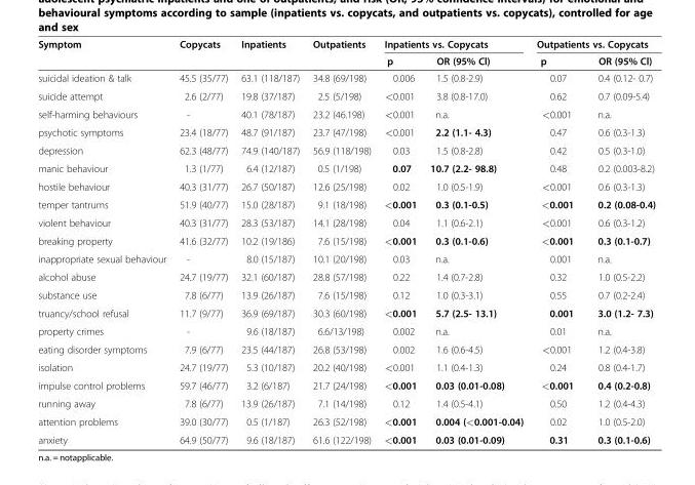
<table><thead><tr><td rowspan="2">Symptom</td><td rowspan="2">Copycats</td><td rowspan="2">Inpatients</td><td rowspan="2">Outpatients</td><td colspan="2">Inpatients vs. Copycats</td><td colspan="2">Outpatients vs. Copycats</td></tr><tr><td>p</td><td>OR (95% Cl)</td><td>p</td><td>OR (95% Cl)</td></tr></thead><tbody><tr><td>suicidal ideation &amp; talk</td><td>45.5 (35/77)</td><td>63.1 (118/187)</td><td>34.8 (69/198)</td><td>0.006</td><td>1.5 (0.8-2.9)</td><td>0.07</td><td>0.4 (0.12- 0.7)</td></tr><tr><td>suicide attempt</td><td>2.6 (2/77)</td><td>19.8 (37/187)</td><td>2.5 (5/198)</td><td>&lt;0.001</td><td>3.8 (0.8-17.0)</td><td>0.62</td><td>0.7 (0.09-5.4)</td></tr><tr><td>self-harming behaviours</td><td>-</td><td>40.1 (78/187)</td><td>23.2 (46.198)</td><td>&lt;0.001</td><td>n.a.</td><td>&lt;0.001</td><td>n.a.</td></tr><tr><td>psychotic symptoms</td><td>23.4 (18/77)</td><td>48.7 (91/187)</td><td>23.7 (47/198)</td><td>&lt;0.001</td><td>2.2 (1.1- 4.3)</td><td>0.47</td><td>0.6 (0.3-1.3)</td></tr><tr><td>depression</td><td>62.3 (48/77)</td><td>74.9 (140/187)</td><td>56.9 (118/198)</td><td>0.03</td><td>1.5 (0.8-2.8)</td><td>0.42</td><td>0.5 (0.3-1.0)</td></tr><tr><td>manic behaviour</td><td>1.3 (1/77)</td><td>6.4 (12/187)</td><td>0.5 (1/198)</td><td>0.07</td><td>10.7 (2.2- 98.8)</td><td>0.48</td><td>0.2 (0.003-8.2)</td></tr><tr><td>hostile behaviour</td><td>40.3 (31/77)</td><td>26.7 (50/187)</td><td>12.6 (25/198)</td><td>0.02</td><td>1.0 (0.5-1.9)</td><td>&lt;0.001</td><td>0.6 (0.3-1.3)</td></tr><tr><td>temper tantrums</td><td>51.9 (40/77)</td><td>15.0 (28/187)</td><td>9.1 (18/198)</td><td>&lt;0.001</td><td>0.3 (0.1-0.5)</td><td>&lt;0.001</td><td>0.2 (0.08-0.4)</td></tr><tr><td>violent behaviour</td><td>40.3 (31/77)</td><td>28.3 (53/187)</td><td>14.1 (28/198)</td><td>0.04</td><td>1.1 (0.6-2.1)</td><td>&lt;0.001</td><td>0.6 (0.3-1.2)</td></tr><tr><td>breaking property</td><td>41.6 (32/77)</td><td>10.2 (19/186)</td><td>7.6 (15/198)</td><td>&lt;0.001</td><td>0.3 (0.1-0.6)</td><td>&lt;0.001</td><td>0.3 (0.1-0.7)</td></tr><tr><td>inappropriate sexual behaviour</td><td>-</td><td>8.0 (15/187)</td><td>10.1 (20/198)</td><td>0.03</td><td>n.a.</td><td>0.001</td><td>n.a.</td></tr><tr><td>alcohol abuse</td><td>24.7 (19/77)</td><td>32.1 (60/187)</td><td>28.8 (57/198)</td><td>0.22</td><td>1.4 (0.7-2.8)</td><td>0.32</td><td>1.0 (0.5-2.2)</td></tr><tr><td>substance use</td><td>7.8 (6/77)</td><td>13.9 (26/187)</td><td>7.6 (15/198)</td><td>0.12</td><td>1.0 (0.3-3.1)</td><td>0.55</td><td>0.7 (0.2-2.4)</td></tr><tr><td>truancy/school refusal</td><td>11.7 (9/77)</td><td>36.9 (69/187)</td><td>30.3 (60/198)</td><td>&lt;0.001</td><td>5.7 (2.5- 13.1)</td><td>0.001</td><td>3.0 (1.2- 7.3)</td></tr><tr><td>property crimes</td><td>-</td><td>9.6 (18/187)</td><td>6.6/13/198)</td><td>0.002</td><td>n.a.</td><td>0.01</td><td>n.a.</td></tr><tr><td>eating disorder symptoms</td><td>7.9 (6/77)</td><td>23.5 (44/187)</td><td>26.8 (53/198)</td><td>0.002</td><td>1.6 (0.6-4.5)</td><td>&lt;0.001</td><td>1.2 (0.4-3.8)</td></tr><tr><td>isolation</td><td>24.7 (19/77)</td><td>5.3 (10/187)</td><td>20.2 (40/198)</td><td>&lt;0.001</td><td>1.1 (0.4-1.3)</td><td>0.24</td><td>0.8 (0.4-1.7)</td></tr><tr><td>impulse control problems</td><td>59.7 (46/77)</td><td>3.2 (6/187)</td><td>21.7 (24/198)</td><td>&lt;0.001</td><td>0.03 (0.01-0.08)</td><td>&lt;0.001</td><td>0.4 (0.2-0.8)</td></tr><tr><td>running away</td><td>7.8 (6/77)</td><td>13.9 (26/187)</td><td>7.1 (14/198)</td><td>0.12</td><td>1.4 (0.5-4.1)</td><td>0.50</td><td>1.2 (0.4-4.3)</td></tr><tr><td>attention problems</td><td>39.0 (30/77)</td><td>0.5 (1/187)</td><td>26.3 (52/198)</td><td>&lt;0.001</td><td>0.004 (&lt;0.001-0.04)</td><td>0.02</td><td>1.0 (0.5-2.0)</td></tr><tr><td>anxiety</td><td>64.9 (50/77)</td><td>9.6 (18/187)</td><td>61.6 (122/198)</td><td>&lt;0.001</td><td>0.03 (0.01-0.09)</td><td>0.31</td><td>0.3 (0.1-0.6)</td></tr></tbody></table>